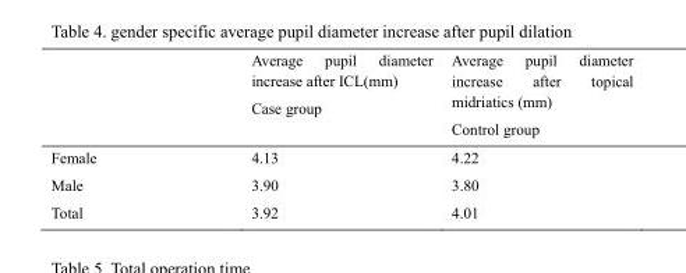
<table><thead><tr><td></td><td>Average pupil diameter increase after ICL(mm) Case group</td><td>Average pupil diameter increase after topical midriatics (mm) Control group</td></tr></thead><tbody><tr><td>Female</td><td>4.13</td><td>4.22</td></tr><tr><td>Male</td><td>3.90</td><td>3.80</td></tr><tr><td>Total</td><td>3.92</td><td>4.01</td></tr></tbody></table>